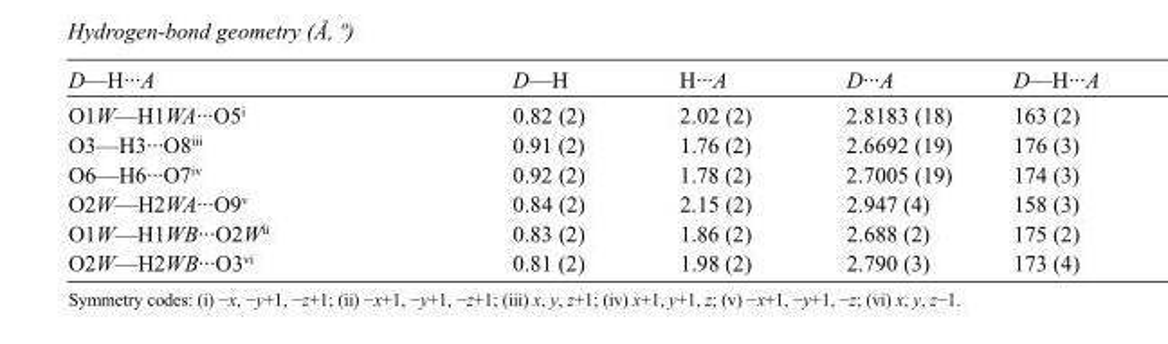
<table><tbody><tr><td>D—H···A</td><td>D—H</td><td>H···A</td><td>D···A</td><td>D—H···A</td></tr><tr><td>O1W—H1WA···O5<sup>i</sup></td><td>0.82 (2)</td><td>2.02 (2)</td><td>2.8183 (18)</td><td>163 (2)</td></tr><tr><td>O3—H3···O8<sup>iii</sup></td><td>0.91 (2)</td><td>1.76 (2)</td><td>2.6692 (19)</td><td>176 (3)</td></tr><tr><td>O6—H6···O7<sup>iv</sup></td><td>0.92 (2)</td><td>1.78 (2)</td><td>2.7005 (19)</td><td>174 (3)</td></tr><tr><td>O2W—H2WA···O9<sup>v</sup></td><td>0.84 (2)</td><td>2.15 (2)</td><td>2.947 (4)</td><td>158 (3)</td></tr><tr><td>O1W—H1WB···O2W<sup>ii</sup></td><td>0.83 (2)</td><td>1.86 (2)</td><td>2.688 (2)</td><td>175 (2)</td></tr><tr><td>O2W—H2WB···O3<sup>vi</sup></td><td>0.81 (2)</td><td>1.98 (2)</td><td>2.790 (3)</td><td>173 (4)</td></tr></tbody></table>